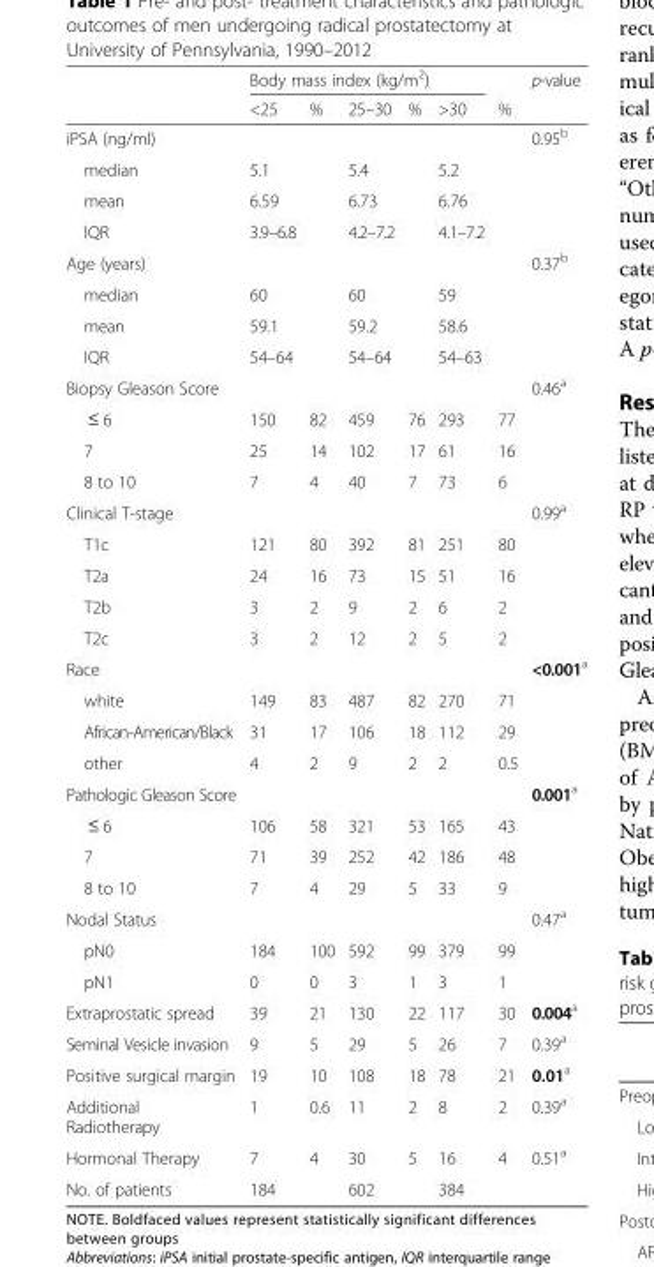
<table><thead><tr><td rowspan="2"></td><td colspan="5">Body mass index (kg/m<sup>2</sup>)</td><td rowspan="2">%</td><td rowspan="2">p-value</td></tr><tr><td>&lt;25</td><td>%</td><td>25–30</td><td>%</td><td>&gt;30</td></tr></thead><tbody><tr><td>iPSA (ng/ml)</td><td></td><td></td><td></td><td></td><td></td><td></td><td>0.95<sup>b</sup></td></tr><tr><td>median</td><td>5.1</td><td></td><td>5.4</td><td></td><td>5.2</td><td></td><td></td></tr><tr><td>mean</td><td>6.59</td><td></td><td>6.73</td><td></td><td>6.76</td><td></td><td></td></tr><tr><td>IQR</td><td>3.9–6.8</td><td></td><td>4.2–7.2</td><td></td><td>4.1–7.2</td><td></td><td></td></tr><tr><td>Age (years)</td><td></td><td></td><td></td><td></td><td></td><td></td><td>0.37<sup>b</sup></td></tr><tr><td>median</td><td>60</td><td></td><td>60</td><td></td><td>59</td><td></td><td></td></tr><tr><td>mean</td><td>59.1</td><td></td><td>59.2</td><td></td><td>58.6</td><td></td><td></td></tr><tr><td>IQR</td><td>54–64</td><td></td><td>54–64</td><td></td><td>54–63</td><td></td><td></td></tr><tr><td>Biopsy Gleason Score</td><td></td><td></td><td></td><td></td><td></td><td></td><td>0.46<sup>a</sup></td></tr><tr><td>≤ 6</td><td>150</td><td>82</td><td>459</td><td>76</td><td>293</td><td>77</td><td></td></tr><tr><td>7</td><td>25</td><td>14</td><td>102</td><td>17</td><td>61</td><td>16</td><td></td></tr><tr><td>8 to 10</td><td>7</td><td>4</td><td>40</td><td>7</td><td>73</td><td>6</td><td></td></tr><tr><td>Clinical T-stage</td><td></td><td></td><td></td><td></td><td></td><td></td><td>0.99<sup>a</sup></td></tr><tr><td>T1c</td><td>121</td><td>80</td><td>392</td><td>81</td><td>251</td><td>80</td><td></td></tr><tr><td>T2a</td><td>24</td><td>16</td><td>73</td><td>15</td><td>51</td><td>16</td><td></td></tr><tr><td>T2b</td><td>3</td><td>2</td><td>9</td><td>2</td><td>6</td><td>2</td><td></td></tr><tr><td>T2c</td><td>3</td><td>2</td><td>12</td><td>2</td><td>5</td><td>2</td><td></td></tr><tr><td>Race</td><td></td><td></td><td></td><td></td><td></td><td></td><td>&lt;0.001<sup>a</sup></td></tr><tr><td>white</td><td>149</td><td>83</td><td>487</td><td>82</td><td>270</td><td>71</td><td></td></tr><tr><td>African-American/Black</td><td>31</td><td>17</td><td>106</td><td>18</td><td>112</td><td>29</td><td></td></tr><tr><td>other</td><td>4</td><td>2</td><td>9</td><td>2</td><td>2</td><td>0.5</td><td></td></tr><tr><td>Pathologic Gleason Score</td><td></td><td></td><td></td><td></td><td></td><td></td><td>0.001<sup>a</sup></td></tr><tr><td>≤ 6</td><td>106</td><td>58</td><td>321</td><td>53</td><td>165</td><td>43</td><td></td></tr><tr><td>7</td><td>71</td><td>39</td><td>252</td><td>42</td><td>186</td><td>48</td><td></td></tr><tr><td>8 to 10</td><td>7</td><td>4</td><td>29</td><td>5</td><td>33</td><td>9</td><td></td></tr><tr><td>Nodal Status</td><td></td><td></td><td></td><td></td><td></td><td></td><td>0.47<sup>a</sup></td></tr><tr><td>pN0</td><td>184</td><td>100</td><td>592</td><td>99</td><td>379</td><td>99</td><td></td></tr><tr><td>pN1</td><td>0</td><td>0</td><td>3</td><td>1</td><td>3</td><td>1</td><td></td></tr><tr><td>Extraprostatic spread</td><td>39</td><td>21</td><td>130</td><td>22</td><td>117</td><td>30</td><td>0.004<sup>a</sup></td></tr><tr><td>Seminal Vesicle invasion</td><td>9</td><td>5</td><td>29</td><td>5</td><td>26</td><td>7</td><td>0.39<sup>a</sup></td></tr><tr><td>Positive surgical margin</td><td>19</td><td>10</td><td>108</td><td>18</td><td>78</td><td>21</td><td>0.01<sup>a</sup></td></tr><tr><td>Additional Radiotherapy</td><td>1</td><td>0.6</td><td>11</td><td>2</td><td>8</td><td>2</td><td>0.39<sup>a</sup></td></tr><tr><td>Hormonal Therapy</td><td>7</td><td>4</td><td>30</td><td>5</td><td>16</td><td>4</td><td>0.51<sup>a</sup></td></tr><tr><td>No. of patients</td><td>184</td><td></td><td>602</td><td></td><td>384</td><td></td><td></td></tr></tbody></table>